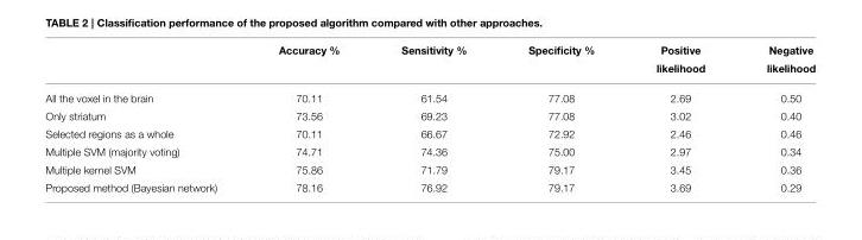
<table><thead><tr><td></td><td>Accuracy %</td><td>Sensitivity %</td><td>Specificity %</td><td>Positive likelihood</td><td>Negative likelihood</td></tr></thead><tbody><tr><td>All the voxel in the brain</td><td>70.11</td><td>61.54</td><td>77.08</td><td>2.69</td><td>0.50</td></tr><tr><td>Only striatum</td><td>73.56</td><td>69.23</td><td>77.08</td><td>3.02</td><td>0.40</td></tr><tr><td>Selected regions as a whole</td><td>70.11</td><td>66.67</td><td>72.92</td><td>2.46</td><td>0.46</td></tr><tr><td>Multiple SVM (majority voting)</td><td>74.71</td><td>74.36</td><td>75.00</td><td>2.97</td><td>0.34</td></tr><tr><td>Multiple kernel SVM</td><td>75.86</td><td>71.79</td><td>79.17</td><td>3.45</td><td>0.36</td></tr><tr><td>Proposed method (Bayesian network)</td><td>78.16</td><td>76.92</td><td>79.17</td><td>3.69</td><td>0.29</td></tr></tbody></table>